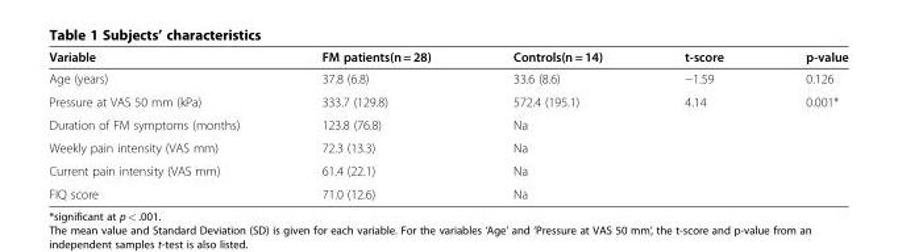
<table><thead><tr><td>Variable</td><td>FM patients(n = 28)</td><td>Controls(n = 14)</td><td>t-score</td><td>p-value</td></tr></thead><tbody><tr><td>Age (years)</td><td>37.8 (6.8)</td><td>33.6 (8.6)</td><td>−1.59</td><td>0.126</td></tr><tr><td>Pressure at VAS 50 mm (kPa)</td><td>333.7 (129.8)</td><td>572.4 (195.1)</td><td>4.14</td><td>0.001*</td></tr><tr><td>Duration of FM symptoms (months)</td><td>123.8 (76.8)</td><td>Na</td><td></td><td></td></tr><tr><td>Weekly pain intensity (VAS mm)</td><td>72.3 (13.3)</td><td>Na</td><td></td><td></td></tr><tr><td>Current pain intensity (VAS mm)</td><td>61.4 (22.1)</td><td>Na</td><td></td><td></td></tr><tr><td>FIQ score</td><td>71.0 (12.6)</td><td>Na</td><td></td><td></td></tr></tbody></table>